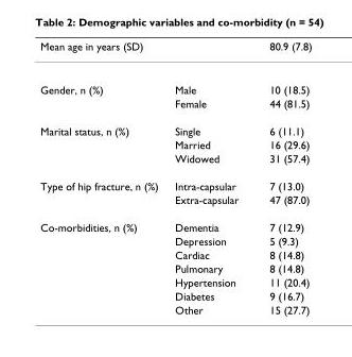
<table><thead><tr><td>Mean age in years (SD)</td><td></td><td>80.9 (7.8)</td></tr></thead><tbody><tr><td rowspan="2">Gender, n (%)</td><td>Male</td><td>10 (18.5)</td></tr><tr><td>Female</td><td>44 (81.5)</td></tr><tr><td rowspan="3">Marital status, n (%)</td><td>Single</td><td>6 (11.1)</td></tr><tr><td>Married</td><td>16 (29.6)</td></tr><tr><td>Widowed</td><td>31 (57.4)</td></tr><tr><td rowspan="2">Type of hip fracture, n (%)</td><td>Intra-capsular</td><td>7 (13.0)</td></tr><tr><td>Extra-capsular</td><td>47 (87.0)</td></tr><tr><td rowspan="7">Co-morbidities, n (%)</td><td>Dementia</td><td>7 (12.9)</td></tr><tr><td>Depression</td><td>5 (9.3)</td></tr><tr><td>Cardiac</td><td>8 (14.8)</td></tr><tr><td>Pulmonary</td><td>8 (14.8)</td></tr><tr><td>Hypertension</td><td>11 (20.4)</td></tr><tr><td>Diabetes</td><td>9 (16.7)</td></tr><tr><td>Other</td><td>15 (27.7)</td></tr></tbody></table>